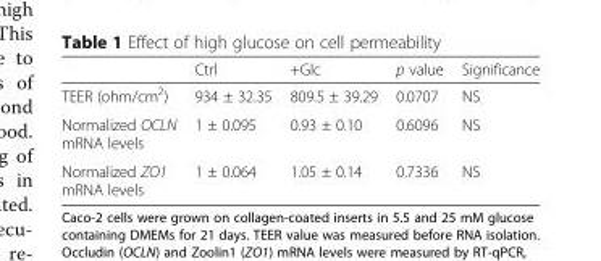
<table><thead><tr><td></td><td>Ctrl</td><td>+Glc</td><td>p value</td><td>Significance</td></tr></thead><tbody><tr><td>TEER (ohm/cm<sup>2</sup>)</td><td>934 ± 32.35</td><td>809.5 ± 39.29</td><td>0.0707</td><td>NS</td></tr><tr><td>Normalized OCLN mRNA levels</td><td>1 ± 0.095</td><td>0.93 ± 0.10</td><td>0.6096</td><td>NS</td></tr><tr><td>Normalized ZO1 mRNA levels</td><td>1 ± 0.064</td><td>1.05 ± 0.14</td><td>0.7336</td><td>NS</td></tr></tbody></table>